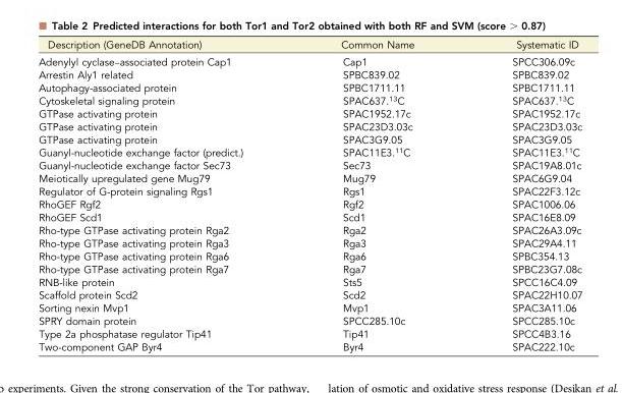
<table><thead><tr><td>Description (GeneDB Annotation)</td><td>Common Name</td><td>Systematic ID</td></tr></thead><tbody><tr><td>Adenylyl cyclase–associated protein Cap1</td><td>Cap1</td><td>SPCC306.09c</td></tr><tr><td>Arrestin Aly1 related</td><td>SPBC839.02</td><td>SPBC839.02</td></tr><tr><td>Autophagy-associated protein</td><td>SPBC1711.11</td><td>SPBC1711.11</td></tr><tr><td>Cytoskeletal signaling protein</td><td>SPAC637.<sup>13</sup>C</td><td>SPAC637.<sup>13</sup>C</td></tr><tr><td>GTPase activating protein</td><td>SPAC1952.17c</td><td>SPAC1952.17c</td></tr><tr><td>GTPase activating protein</td><td>SPAC23D3.03c</td><td>SPAC23D3.03c</td></tr><tr><td>GTPase activating protein</td><td>SPAC3G9.05</td><td>SPAC3G9.05</td></tr><tr><td>Guanyl-nucleotide exchange factor (predict.)</td><td>SPAC11E3.<sup>11</sup>C</td><td>SPAC11E3.<sup>11</sup>C</td></tr><tr><td>Guanyl-nucleotide exchange factor Sec73</td><td>Sec73</td><td>SPAC19A8.01c</td></tr><tr><td>Meiotically upregulated gene Mug79</td><td>Mug79</td><td>SPAC6G9.04</td></tr><tr><td>Regulator of G-protein signaling Rgs1</td><td>Rgs1</td><td>SPAC22F3.12c</td></tr><tr><td>RhoGEF Rgf2</td><td>Rgf2</td><td>SPAC1006.06</td></tr><tr><td>RhoGEF Scd1</td><td>Scd1</td><td>SPAC16E8.09</td></tr><tr><td>Rho-type GTPase activating protein Rga2</td><td>Rga2</td><td>SPAC26A3.09c</td></tr><tr><td>Rho-type GTPase activating protein Rga3</td><td>Rga3</td><td>SPAC29A4.11</td></tr><tr><td>Rho-type GTPase activating protein Rga6</td><td>Rga6</td><td>SPBC354.13</td></tr><tr><td>Rho-type GTPase activating protein Rga7</td><td>Rga7</td><td>SPBC23G7.08c</td></tr><tr><td>RNB-like protein</td><td>Sts5</td><td>SPCC16C4.09</td></tr><tr><td>Scaffold protein Scd2</td><td>Scd2</td><td>SPAC22H10.07</td></tr><tr><td>Sorting nexin Mvp1</td><td>Mvp1</td><td>SPAC3A11.06</td></tr><tr><td>SPRY domain protein</td><td>SPCC285.10c</td><td>SPCC285.10c</td></tr><tr><td>Type 2a phosphatase regulator Tip41</td><td>Tip41</td><td>SPCC4B3.16</td></tr><tr><td>Two-component GAP Byr4</td><td>Byr4</td><td>SPAC222.10c</td></tr></tbody></table>